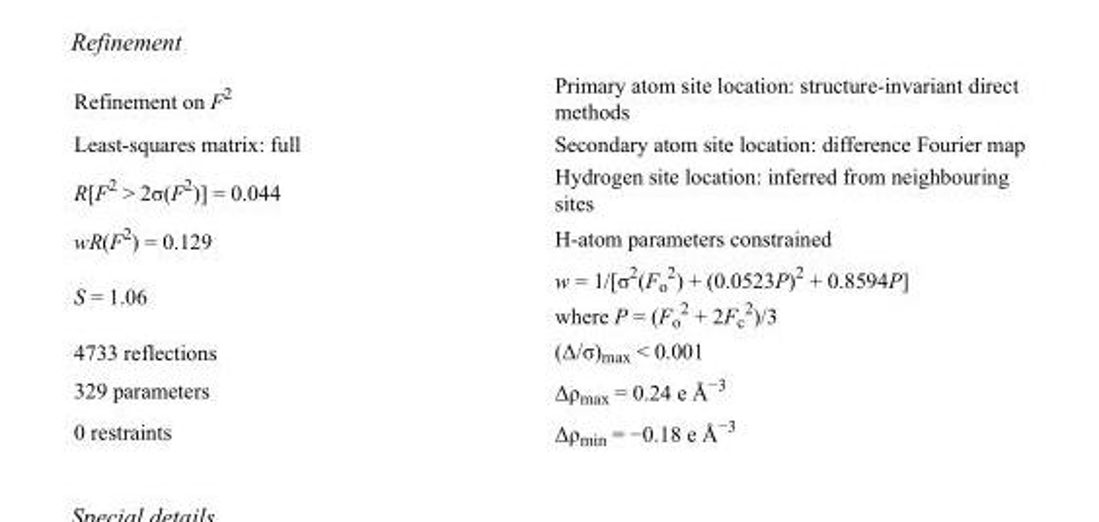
<table><tbody><tr><td>Refinement on F<sup>2</sup></td><td>Primary atom site location: structure-invariant direct methods</td></tr><tr><td>Least-squares matrix: full</td><td>Secondary atom site location: difference Fourier map</td></tr><tr><td>R[F<sup>2</sup> &gt; 2σ(F<sup>2</sup>)] = 0.044</td><td>Hydrogen site location: inferred from neighbouring sites</td></tr><tr><td>wR(F<sup>2</sup>) = 0.129</td><td>H-atom parameters constrained</td></tr><tr><td>S = 1.06</td><td>w = 1/[σ<sup>2</sup>(F<sub>o</sub> <sup>2</sup>) + (0.0523P)<sup>2</sup> + 0.8594P] where P = (F<sub>o</sub> <sup>2</sup> + 2F<sub>c</sub> <sup>2</sup>)/3</td></tr><tr><td>4733 reflections</td><td>(Δ/σ)<sub>max</sub> &lt; 0.001</td></tr><tr><td>329 parameters</td><td>Δρ<sub>max</sub> = 0.24 e Å<sup>−3</sup></td></tr><tr><td>0 restraints</td><td>Δρ<sub>min</sub> = −0.18 e Å<sup>−3</sup></td></tr></tbody></table>